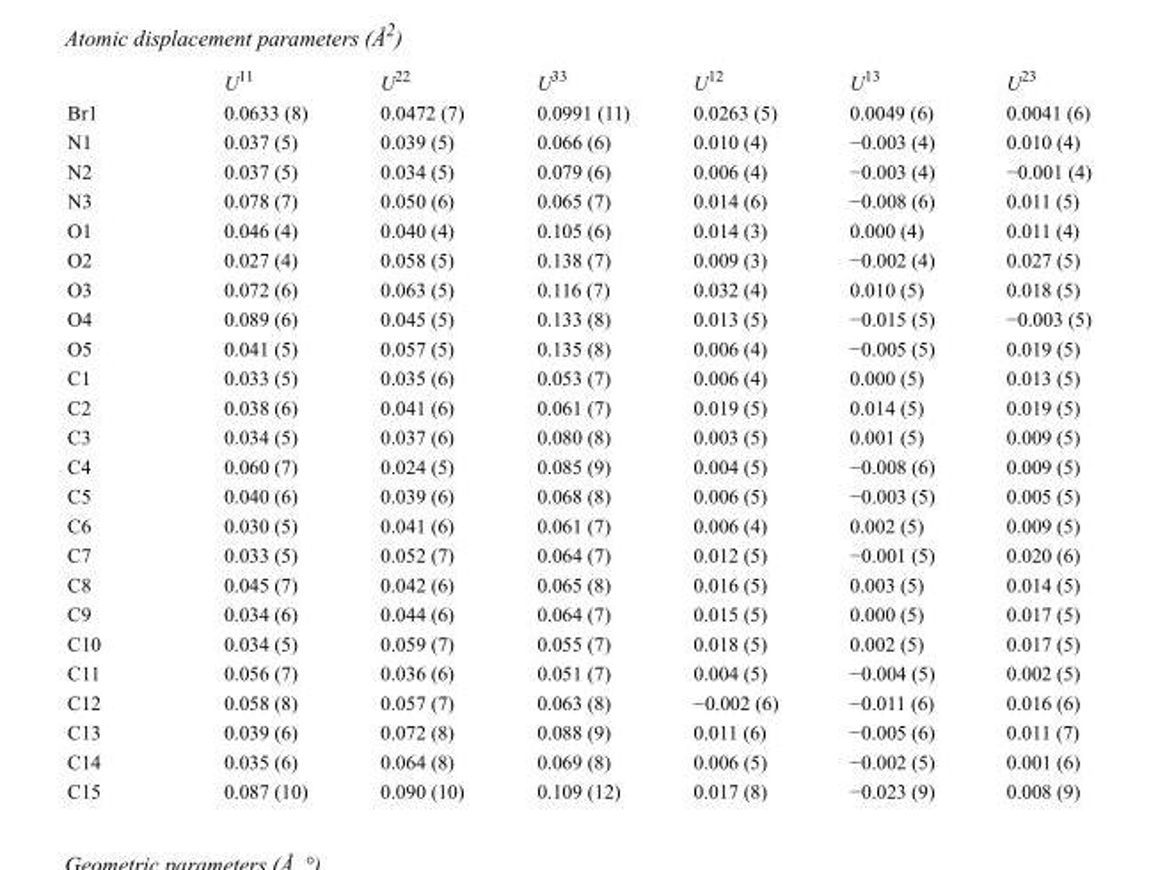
<table><thead><tr><td></td><td>U<sup>11</sup></td><td>U<sup>22</sup></td><td>U<sup>33</sup></td><td>U<sup>12</sup></td><td>U<sup>13</sup></td><td>U<sup>23</sup></td></tr></thead><tbody><tr><td>Br1</td><td>0.0633 (8)</td><td>0.0472 (7)</td><td>0.0991 (11)</td><td>0.0263 (5)</td><td>0.0049 (6)</td><td>0.0041 (6)</td></tr><tr><td>N1</td><td>0.037 (5)</td><td>0.039 (5)</td><td>0.066 (6)</td><td>0.010 (4)</td><td>−0.003 (4)</td><td>0.010 (4)</td></tr><tr><td>N2</td><td>0.037 (5)</td><td>0.034 (5)</td><td>0.079 (6)</td><td>0.006 (4)</td><td>−0.003 (4)</td><td>−0.001 (4)</td></tr><tr><td>N3</td><td>0.078 (7)</td><td>0.050 (6)</td><td>0.065 (7)</td><td>0.014 (6)</td><td>−0.008 (6)</td><td>0.011 (5)</td></tr><tr><td>O1</td><td>0.046 (4)</td><td>0.040 (4)</td><td>0.105 (6)</td><td>0.014 (3)</td><td>0.000 (4)</td><td>0.011 (4)</td></tr><tr><td>O2</td><td>0.027 (4)</td><td>0.058 (5)</td><td>0.138 (7)</td><td>0.009 (3)</td><td>−0.002 (4)</td><td>0.027 (5)</td></tr><tr><td>O3</td><td>0.072 (6)</td><td>0.063 (5)</td><td>0.116 (7)</td><td>0.032 (4)</td><td>0.010 (5)</td><td>0.018 (5)</td></tr><tr><td>O4</td><td>0.089 (6)</td><td>0.045 (5)</td><td>0.133 (8)</td><td>0.013 (5)</td><td>−0.015 (5)</td><td>−0.003 (5)</td></tr><tr><td>O5</td><td>0.041 (5)</td><td>0.057 (5)</td><td>0.135 (8)</td><td>0.006 (4)</td><td>−0.005 (5)</td><td>0.019 (5)</td></tr><tr><td>C1</td><td>0.033 (5)</td><td>0.035 (6)</td><td>0.053 (7)</td><td>0.006 (4)</td><td>0.000 (5)</td><td>0.013 (5)</td></tr><tr><td>C2</td><td>0.038 (6)</td><td>0.041 (6)</td><td>0.061 (7)</td><td>0.019 (5)</td><td>0.014 (5)</td><td>0.019 (5)</td></tr><tr><td>C3</td><td>0.034 (5)</td><td>0.037 (6)</td><td>0.080 (8)</td><td>0.003 (5)</td><td>0.001 (5)</td><td>0.009 (5)</td></tr><tr><td>C4</td><td>0.060 (7)</td><td>0.024 (5)</td><td>0.085 (9)</td><td>0.004 (5)</td><td>−0.008 (6)</td><td>0.009 (5)</td></tr><tr><td>C5</td><td>0.040 (6)</td><td>0.039 (6)</td><td>0.068 (8)</td><td>0.006 (5)</td><td>−0.003 (5)</td><td>0.005 (5)</td></tr><tr><td>C6</td><td>0.030 (5)</td><td>0.041 (6)</td><td>0.061 (7)</td><td>0.006 (4)</td><td>0.002 (5)</td><td>0.009 (5)</td></tr><tr><td>C7</td><td>0.033 (5)</td><td>0.052 (7)</td><td>0.064 (7)</td><td>0.012 (5)</td><td>−0.001 (5)</td><td>0.020 (6)</td></tr><tr><td>C8</td><td>0.045 (7)</td><td>0.042 (6)</td><td>0.065 (8)</td><td>0.016 (5)</td><td>0.003 (5)</td><td>0.014 (5)</td></tr><tr><td>C9</td><td>0.034 (6)</td><td>0.044 (6)</td><td>0.064 (7)</td><td>0.015 (5)</td><td>0.000 (5)</td><td>0.017 (5)</td></tr><tr><td>C10</td><td>0.034 (5)</td><td>0.059 (7)</td><td>0.055 (7)</td><td>0.018 (5)</td><td>0.002 (5)</td><td>0.017 (5)</td></tr><tr><td>C11</td><td>0.056 (7)</td><td>0.036 (6)</td><td>0.051 (7)</td><td>0.004 (5)</td><td>−0.004 (5)</td><td>0.002 (5)</td></tr><tr><td>C12</td><td>0.058 (8)</td><td>0.057 (7)</td><td>0.063 (8)</td><td>−0.002 (6)</td><td>−0.011 (6)</td><td>0.016 (6)</td></tr><tr><td>C13</td><td>0.039 (6)</td><td>0.072 (8)</td><td>0.088 (9)</td><td>0.011 (6)</td><td>−0.005 (6)</td><td>0.011 (7)</td></tr><tr><td>C14</td><td>0.035 (6)</td><td>0.064 (8)</td><td>0.069 (8)</td><td>0.006 (5)</td><td>−0.002 (5)</td><td>0.001 (6)</td></tr><tr><td>C15</td><td>0.087 (10)</td><td>0.090 (10)</td><td>0.109 (12)</td><td>0.017 (8)</td><td>−0.023 (9)</td><td>0.008 (9)</td></tr></tbody></table>